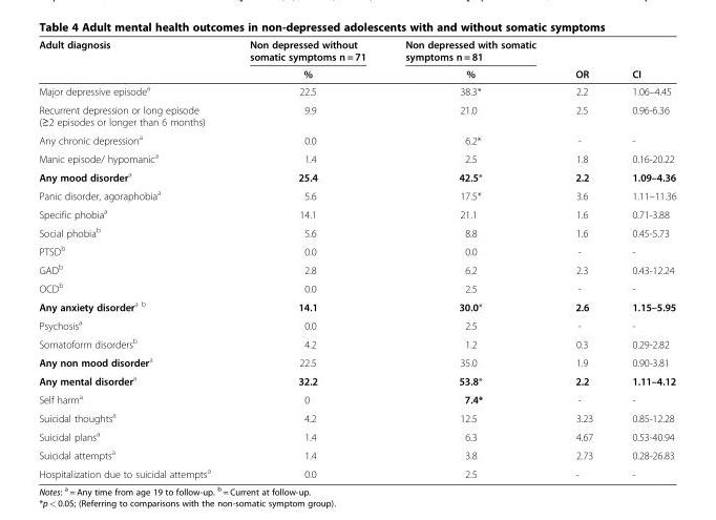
<table><thead><tr><td rowspan="2">Adult diagnosis</td><td rowspan="2">Non depressed without somatic symptoms n = 71 %</td><td rowspan="2">Non depressed with somatic symptoms n = 81 %</td><td rowspan="2">OR</td><td rowspan="2">CI</td></tr><tr></tr></thead><tbody><tr><td>Major depressive episode<sup>a</sup></td><td>22.5</td><td>38.3*</td><td>2.2</td><td>1.06–4.45</td></tr><tr><td>Recurrent depression or long episode (≥2 episodes or longer than 6 months)</td><td>9.9</td><td>21.0</td><td>2.5</td><td>0.96-6.36</td></tr><tr><td>Any chronic depression<sup>a</sup></td><td>0.0</td><td>6.2*</td><td>-</td><td>-</td></tr><tr><td>Manic episode/ hypomanic<sup>a</sup></td><td>1.4</td><td>2.5</td><td>1.8</td><td>0.16-20.22</td></tr><tr><td>Any mood disorder<sup>a</sup></td><td>25.4</td><td>42.5*</td><td>2.2</td><td>1.09–4.36</td></tr><tr><td>Panic disorder, agoraphobia<sup>a</sup></td><td>5.6</td><td>17.5*</td><td>3.6</td><td>1.11–11.36</td></tr><tr><td>Specific phobia<sup>a</sup></td><td>14.1</td><td>21.1</td><td>1.6</td><td>0.71-3.88</td></tr><tr><td>Social phobia<sup>b</sup></td><td>5.6</td><td>8.8</td><td>1.6</td><td>0.45-5.73</td></tr><tr><td>PTSD<sup>b</sup></td><td>0.0</td><td>0.0</td><td>-</td><td>-</td></tr><tr><td>GAD<sup>b</sup></td><td>2.8</td><td>6.2</td><td>2.3</td><td>0.43-12.24</td></tr><tr><td>OCD<sup>b</sup></td><td>0.0</td><td>2.5</td><td>-</td><td>-</td></tr><tr><td>Any anxiety disorder<sup>a b</sup></td><td>14.1</td><td>30.0*</td><td>2.6</td><td>1.15–5.95</td></tr><tr><td>Psychosis<sup>a</sup></td><td>0.0</td><td>2.5</td><td>-</td><td>-</td></tr><tr><td>Somatoform disorders<sup>b</sup></td><td>4.2</td><td>1.2</td><td>0.3</td><td>0.29-2.82</td></tr><tr><td>Any non mood disorder<sup>a</sup></td><td>22.5</td><td>35.0</td><td>1.9</td><td>0.90-3.81</td></tr><tr><td>Any mental disorder<sup>a</sup></td><td>32.2</td><td>53.8*</td><td>2.2</td><td>1.11–4.12</td></tr><tr><td>Self harm<sup>a</sup></td><td>0</td><td>7.4*</td><td>-</td><td>-</td></tr><tr><td>Suicidal thoughts<sup>a</sup></td><td>4.2</td><td>12.5</td><td>3.23</td><td>0.85-12.28</td></tr><tr><td>Suicidal plans<sup>a</sup></td><td>1.4</td><td>6.3</td><td>4.67</td><td>0.53-40.94</td></tr><tr><td>Suicidal attempts<sup>a</sup></td><td>1.4</td><td>3.8</td><td>2.73</td><td>0.28-26.83</td></tr><tr><td>Hospitalization due to suicidal attempts<sup>a</sup></td><td>0.0</td><td>2.5</td><td>-</td><td>-</td></tr></tbody></table>